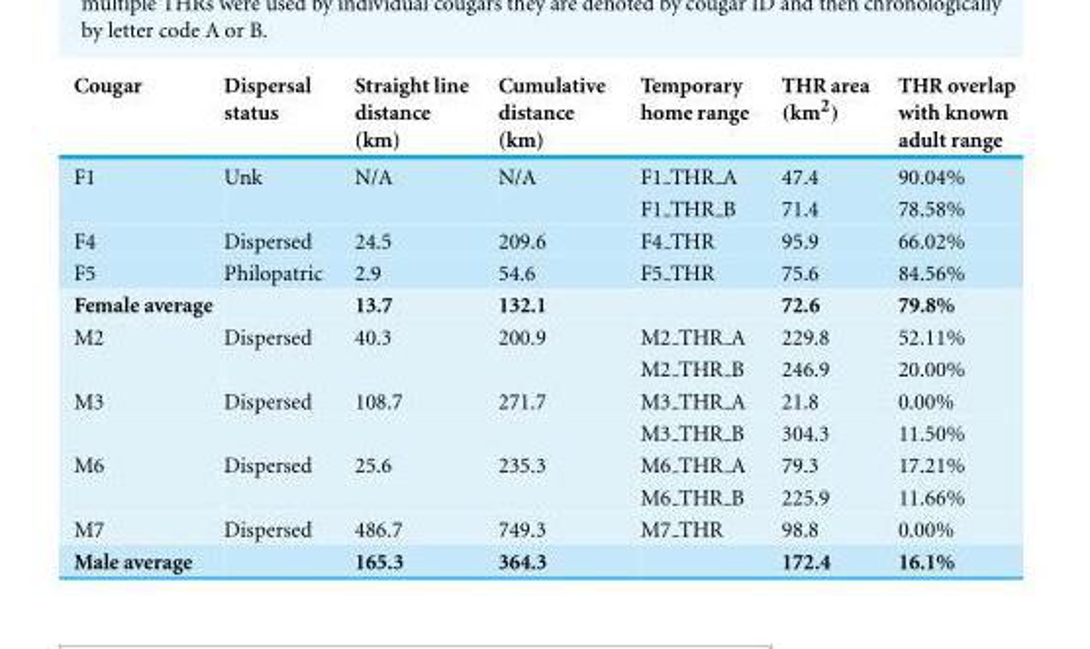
<table><thead><tr><td>Cougar</td><td>Dispersal status</td><td>Straight line distance (km)</td><td>Cumulative distance (km)</td><td>Temporary home range</td><td>THR area (km<sup>2</sup>)</td><td>THR overlap with known adult range</td></tr></thead><tbody><tr><td rowspan="2">F1</td><td>Unk</td><td>N/A</td><td>N/A</td><td>F1 <sub>THR</sub> A</td><td>47.4</td><td>90.04%</td></tr><tr><td></td><td></td><td></td><td>F1 <sub>THR</sub> B</td><td>71.4</td><td>78.58%</td></tr><tr><td>F4</td><td>Dispersed</td><td>24.5</td><td>209.6</td><td>F4 THR</td><td>95.9</td><td>66.02%</td></tr><tr><td>F5</td><td>Philopatric</td><td>2.9</td><td>54.6</td><td>F5 THR</td><td>75.6</td><td>84.56%</td></tr><tr><td>Female average</td><td></td><td>13.7</td><td>132.1</td><td></td><td>72.6</td><td>79.8%</td></tr><tr><td rowspan="2">M2</td><td>Dispersed</td><td>40.3</td><td>200.9</td><td>M2 <sub>THR</sub> A</td><td>229.8</td><td>52.11%</td></tr><tr><td></td><td></td><td></td><td>M2 <sub>THR</sub> B</td><td>246.9</td><td>20.00%</td></tr><tr><td rowspan="2">M3</td><td>Dispersed</td><td>108.7</td><td>271.7</td><td>M3 <sub>THR</sub> A</td><td>21.8</td><td>0.00%</td></tr><tr><td></td><td></td><td></td><td>M3 <sub>THR</sub> B</td><td>304.3</td><td>11.50%</td></tr><tr><td rowspan="2">M6</td><td>Dispersed</td><td>25.6</td><td>235.3</td><td>M6 <sub>THR</sub> A</td><td>79.3</td><td>17.21%</td></tr><tr><td></td><td></td><td></td><td>M6 <sub>THR</sub> B</td><td>225.9</td><td>11.66%</td></tr><tr><td>M7</td><td>Dispersed</td><td>486.7</td><td>749.3</td><td>M7 THR</td><td>98.8</td><td>0.00%</td></tr><tr><td>Male average</td><td></td><td>165.3</td><td>364.3</td><td></td><td>172.4</td><td>16.1%</td></tr></tbody></table>